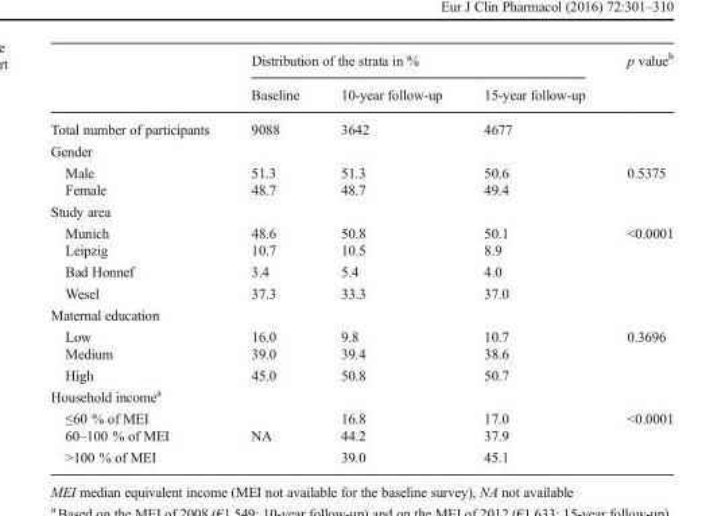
<table><thead><tr><td rowspan="2"></td><td colspan="3">Distribution of the strata in %</td><td rowspan="2">p value<sup>b</sup></td></tr><tr><td>Baseline</td><td>10-year follow-up</td><td>15-year follow-up</td></tr></thead><tbody><tr><td>Total number of participants</td><td>9088</td><td>3642</td><td>4677</td><td></td></tr><tr><td colspan="5">Gender</td></tr><tr><td>Male</td><td>51.3</td><td>51.3</td><td>50.6</td><td rowspan="2">0.5375</td></tr><tr><td>Female</td><td>48.7</td><td>48.7</td><td>49.4</td></tr><tr><td colspan="5">Study area</td></tr><tr><td>Munich</td><td>48.6</td><td>50.8</td><td>50.1</td><td rowspan="4">&lt;0.0001</td></tr><tr><td>Leipzig</td><td>10.7</td><td>10.5</td><td>8.9</td></tr><tr><td>Bad Honnef</td><td>3.4</td><td>5.4</td><td>4.0</td></tr><tr><td>Wesel</td><td>37.3</td><td>33.3</td><td>37.0</td></tr><tr><td colspan="5">Maternal education</td></tr><tr><td>Low</td><td>16.0</td><td>9.8</td><td>10.7</td><td rowspan="3">0.3696</td></tr><tr><td>Medium</td><td>39.0</td><td>39.4</td><td>38.6</td></tr><tr><td>High</td><td>45.0</td><td>50.8</td><td>50.7</td></tr><tr><td colspan="5">Household income<sup>a</sup></td></tr><tr><td>≤60 % of MEI</td><td></td><td>16.8</td><td>17.0</td><td rowspan="3">&lt;0.0001</td></tr><tr><td>60–100 % of MEI</td><td>NA</td><td>44.2</td><td>37.9</td></tr><tr><td>&gt;100 % of MEI</td><td></td><td>39.0</td><td>45.1</td></tr></tbody></table>